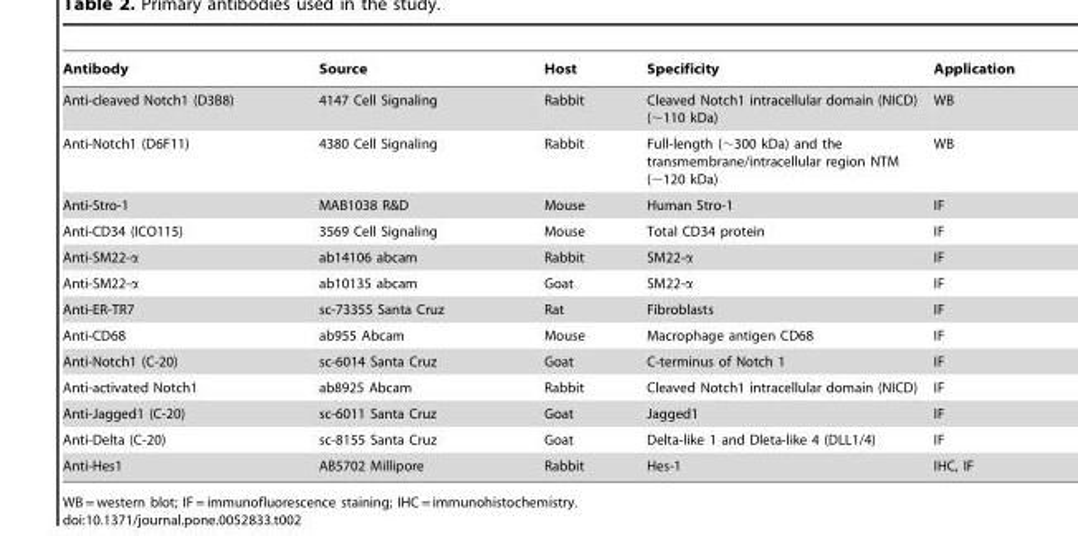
<table><thead><tr><td>Antibody</td><td>Source</td><td>Host</td><td>Specificity</td><td>Application</td></tr></thead><tbody><tr><td>Anti-cleaved Notch1 (D3B8)</td><td>4147 Cell Signaling</td><td>Rabbit</td><td>Cleaved Notch1 intracellular domain (NICD) (∼110 kDa)</td><td>WB</td></tr><tr><td>Anti-Notch1 (D6F11)</td><td>4380 Cell Signaling</td><td>Rabbit</td><td>Full-length (∼300 kDa) and the transmembrane/intracellular region NTM (∼120 kDa)</td><td>WB</td></tr><tr><td>Anti-Stro-1</td><td>MAB1038 R&amp;D</td><td>Mouse</td><td>Human Stro-1</td><td>IF</td></tr><tr><td>Anti-CD34 (ICO115)</td><td>3569 Cell Signaling</td><td>Mouse</td><td>Total CD34 protein</td><td>IF</td></tr><tr><td>Anti-SM22-α</td><td>ab14106 abcam</td><td>Rabbit</td><td>SM22-α</td><td>IF</td></tr><tr><td>Anti-SM22-α</td><td>ab10135 abcam</td><td>Goat</td><td>SM22-α</td><td>IF</td></tr><tr><td>Anti-ER-TR7</td><td>sc-73355 Santa Cruz</td><td>Rat</td><td>Fibroblasts</td><td>IF</td></tr><tr><td>Anti-CD68</td><td>ab955 Abcam</td><td>Mouse</td><td>Macrophage antigen CD68</td><td>IF</td></tr><tr><td>Anti-Notch1 (C-20)</td><td>sc-6014 Santa Cruz</td><td>Goat</td><td>C-terminus of Notch 1</td><td>IF</td></tr><tr><td>Anti-activated Notch1</td><td>ab8925 Abcam</td><td>Rabbit</td><td>Cleaved Notch1 intracellular domain (NICD)</td><td>IF</td></tr><tr><td>Anti-Jagged1 (C-20)</td><td>sc-6011 Santa Cruz</td><td>Goat</td><td>Jagged1</td><td>IF</td></tr><tr><td>Anti-Delta (C-20)</td><td>sc-8155 Santa Cruz</td><td>Goat</td><td>Delta-like 1 and Dleta-like 4 (DLL1/4)</td><td>IF</td></tr><tr><td>Anti-Hes1</td><td>AB5702 Millipore</td><td>Rabbit</td><td>Hes-1</td><td>IHC, IF</td></tr></tbody></table>